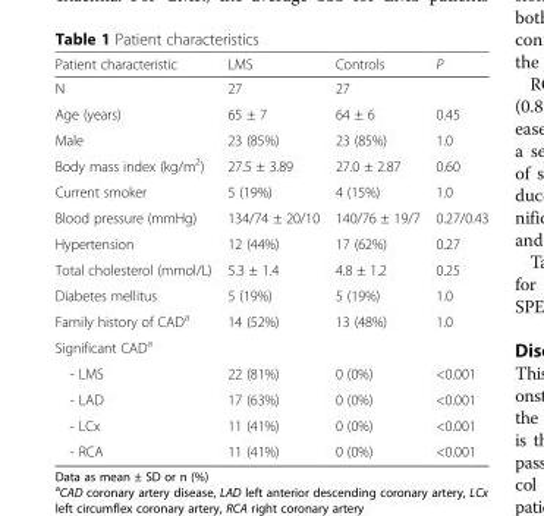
<table><thead><tr><td>Patient characteristic</td><td>LMS</td><td>Controls</td><td>P</td></tr></thead><tbody><tr><td>N</td><td>27</td><td>27</td><td></td></tr><tr><td>Age (years)</td><td>65 ± 7</td><td>64 ± 6</td><td>0.45</td></tr><tr><td>Male</td><td>23 (85%)</td><td>23 (85%)</td><td>1.0</td></tr><tr><td>Body mass index (kg/m<sup>2</sup>)</td><td>27.5 ± 3.89</td><td>27.0 ± 2.87</td><td>0.60</td></tr><tr><td>Current smoker</td><td>5 (19%)</td><td>4 (15%)</td><td>1.0</td></tr><tr><td>Blood pressure (mmHg)</td><td>134/74 ± 20/10</td><td>140/76 ± 19/7</td><td>0.27/0.43</td></tr><tr><td>Hypertension</td><td>12 (44%)</td><td>17 (62%)</td><td>0.27</td></tr><tr><td>Total cholesterol (mmol/L)</td><td>5.3 ± 1.4</td><td>4.8 ± 1.2</td><td>0.25</td></tr><tr><td>Diabetes mellitus</td><td>5 (19%)</td><td>5 (19%)</td><td>1.0</td></tr><tr><td>Family history of CAD<sup>a</sup></td><td>14 (52%)</td><td>13 (48%)</td><td>1.0</td></tr><tr><td colspan="4">Significant CAD<sup>a</sup></td></tr><tr><td>- LMS</td><td>22 (81%)</td><td>0 (0%)</td><td>&lt;0.001</td></tr><tr><td>- LAD</td><td>17 (63%)</td><td>0 (0%)</td><td>&lt;0.001</td></tr><tr><td>- LCx</td><td>11 (41%)</td><td>0 (0%)</td><td>&lt;0.001</td></tr><tr><td>- RCA</td><td>11 (41%)</td><td>0 (0%)</td><td>&lt;0.001</td></tr></tbody></table>